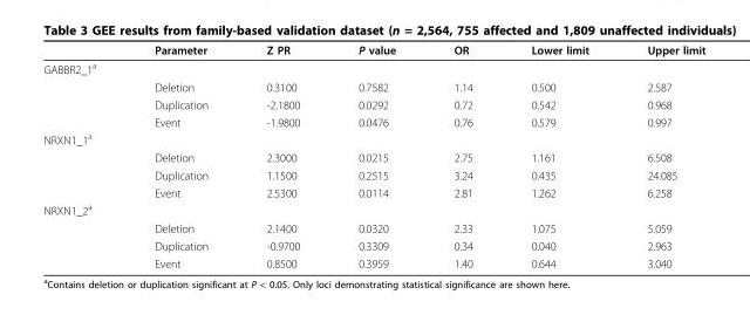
<table><thead><tr><td></td><td>Parameter</td><td>Z PR</td><td>P value</td><td>OR</td><td>Lower limit</td><td>Upper limit</td></tr></thead><tbody><tr><td colspan="7">GABBR2_1<sup>a</sup></td></tr><tr><td></td><td>Deletion</td><td>0.3100</td><td>0.7582</td><td>1.14</td><td>0.500</td><td>2.587</td></tr><tr><td></td><td>Duplication</td><td>-2.1800</td><td>0.0292</td><td>0.72</td><td>0.542</td><td>0.968</td></tr><tr><td></td><td>Event</td><td>-1.9800</td><td>0.0476</td><td>0.76</td><td>0.579</td><td>0.997</td></tr><tr><td colspan="7">NRXN1_1<sup>a</sup></td></tr><tr><td></td><td>Deletion</td><td>2.3000</td><td>0.0215</td><td>2.75</td><td>1.161</td><td>6.508</td></tr><tr><td></td><td>Duplication</td><td>1.1500</td><td>0.2515</td><td>3.24</td><td>0.435</td><td>24.085</td></tr><tr><td></td><td>Event</td><td>2.5300</td><td>0.0114</td><td>2.81</td><td>1.262</td><td>6.258</td></tr><tr><td colspan="7">NRXN1_2<sup>a</sup></td></tr><tr><td></td><td>Deletion</td><td>2.1400</td><td>0.0320</td><td>2.33</td><td>1.075</td><td>5.059</td></tr><tr><td></td><td>Duplication</td><td>-0.9700</td><td>0.3309</td><td>0.34</td><td>0.040</td><td>2.963</td></tr><tr><td></td><td>Event</td><td>0.8500</td><td>0.3959</td><td>1.40</td><td>0.644</td><td>3.040</td></tr></tbody></table>